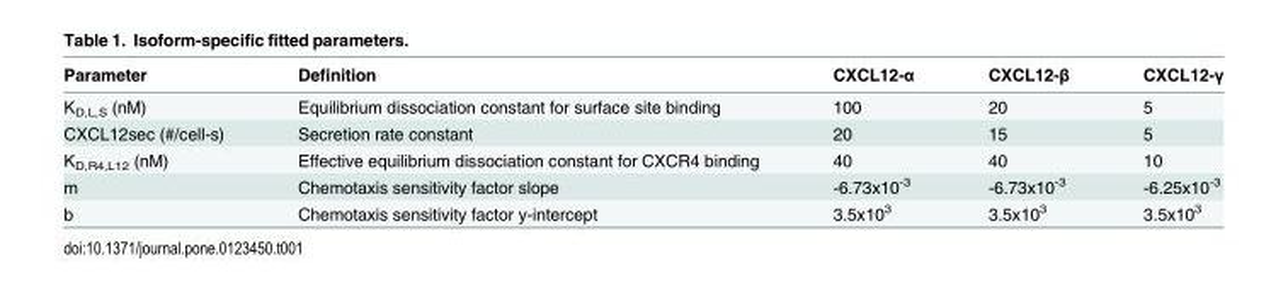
<table><thead><tr><td>Parameter</td><td>Definition</td><td>CXCL12-α</td><td>CXCL12-β</td><td>CXCL12-γ</td></tr></thead><tbody><tr><td>K<sub>D,L,S</sub> (nM)</td><td>Equilibrium dissociation constant for surface site binding</td><td>100</td><td>20</td><td>5</td></tr><tr><td>CXCL12sec (#/cell-s)</td><td>Secretion rate constant</td><td>20</td><td>15</td><td>5</td></tr><tr><td>K<sub>D,R4,L12</sub> (nM)</td><td>Effective equilibrium dissociation constant for CXCR4 binding</td><td>40</td><td>40</td><td>10</td></tr><tr><td>m</td><td>Chemotaxis sensitivity factor slope</td><td>-6.73x10<sup>-3</sup></td><td>-6.73x10<sup>-3</sup></td><td>-6.25x10<sup>-3</sup></td></tr><tr><td>b</td><td>Chemotaxis sensitivity factor y-intercept</td><td>3.5x10<sup>3</sup></td><td>3.5x10<sup>3</sup></td><td>3.5x10<sup>3</sup></td></tr></tbody></table>